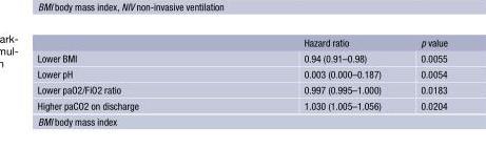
<table><thead><tr><td></td><td>Hazard ratio</td><td>p value</td></tr></thead><tbody><tr><td>Lower BMI</td><td>0.94 (0.91–0.98)</td><td>0.0055</td></tr><tr><td>Lower pH</td><td>0.003 (0.000–0.187)</td><td>0.0054</td></tr><tr><td>Lower paO2/FiO2 ratio</td><td>0.997 (0.995–1.000)</td><td>0.0183</td></tr><tr><td>Higher paCO2 on discharge</td><td>1.030 (1.005–1.056)</td><td>0.0204</td></tr></tbody></table>